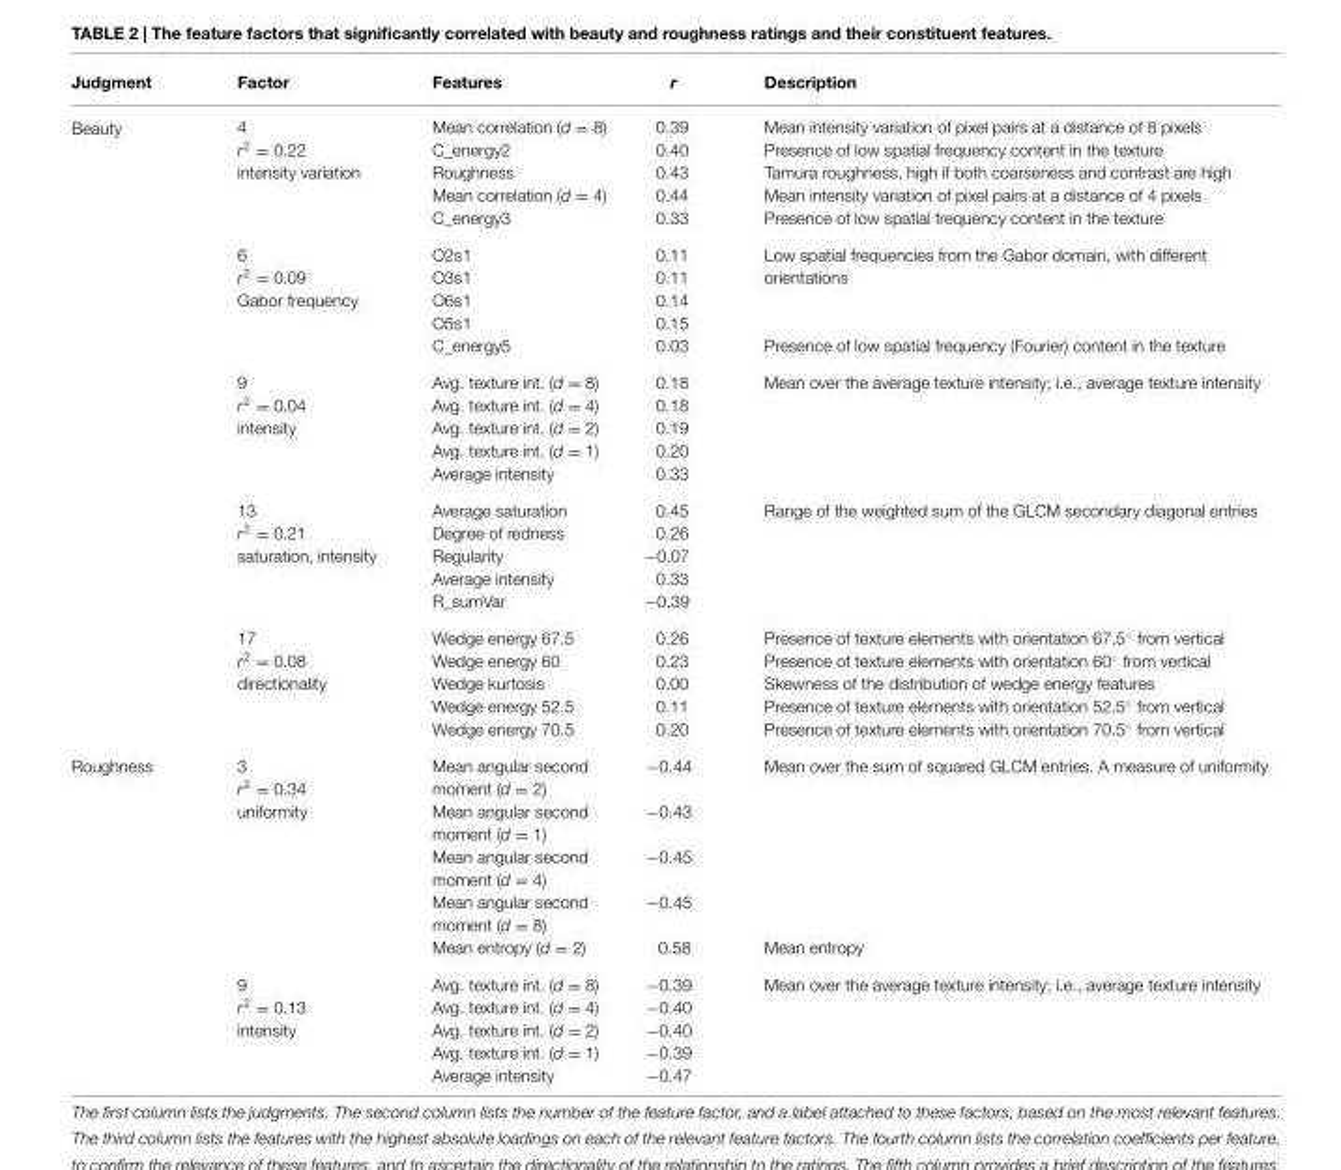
<table><thead><tr><td>Judgment</td><td>Factor</td><td>Features</td><td>r</td><td>Description</td></tr></thead><tbody><tr><td rowspan="5">Beauty</td><td>4 r<sup>2</sup> = 0.22 intensity variation</td><td>Mean correlation (d = 8) C_energy2 Roughness Mean correlation (d = 4) C_energy3</td><td>0.39 0.40 0.43 0.44 0.33</td><td>Mean intensity variation of pixel pairs at a distance of 8 pixels Presence of low spatial frequency content in the texture Tamura roughness, high if both coarseness and contrast are high Mean intensity variation of pixel pairs at a distance of 4 pixels Presence of low spatial frequency content in the texture</td></tr><tr><td>6 r<sup>2</sup> = 0.09 Gabor frequency</td><td>O2s1 O3s1 O6s1 O5s1 C_energy5</td><td>0.11 0.11 0.14 0.15 0.03</td><td>Low spatial frequencies from the Gabor domain, with different orientations Presence of low spatial frequency (Fourier) content in the texture</td></tr><tr><td>9 r<sup>2</sup> = 0.04 intensity</td><td>Avg. texture int. (d = 8) Avg. texture int. (d = 4) Avg. texture int. (d = 2) Avg. texture int. (d = 1) Average intensity</td><td>0.18 0.18 0.19 0.20 0.33</td><td>Mean over the average texture intensity; i.e., average texture intensity</td></tr><tr><td>13 r<sup>2</sup> = 0.21 saturation, intensity</td><td>Average saturation Degree of redness Regularity Average intensity R_sumVar</td><td>0.45 0.26 −0.07 0.33 −0.39</td><td>Range of the weighted sum of the GLCM secondary diagonal entries</td></tr><tr><td>17 r2 = 0.08 directionality</td><td>Wedge energy 67.5 Wedge energy 60 Wedge kurtosis Wedge energy 52.5 Wedge energy 70.5</td><td>0.26 0.23 0.00 0.11 0.20</td><td>Presence of texture elements with orientation 67.5◦ from vertical Presence of texture elements with orientation 60◦ from vertical Skewness of the distribution of wedge energy features Presence of texture elements with orientation 52.5◦ from vertical Presence of texture elements with orientation 70.5◦ from vertical</td></tr><tr><td rowspan="2">Roughness</td><td>3 r2 = 0.34 uniformity</td><td>Mean angular second moment (d = 2) Mean angular second moment (d = 1) Mean angular second moment (d = 4) Mean angular second moment (d = 8) Mean entropy (d = 2)</td><td>−0.44 −0.43 −0.45 −0.45 0.58</td><td>Mean over the sum of squared GLCM entries. A measure of uniformity Mean entropy</td></tr><tr><td>9 r2 = 0.13 intensity</td><td>Avg. texture int. (d = 8) Avg. texture int. (d = 4) Avg. texture int. (d = 2) Avg. texture int. (d = 1) Average intensity</td><td>−0.39 −0.40 −0.40 −0.39 −0.47</td><td>Mean over the average texture intensity; i.e., average texture intensity</td></tr></tbody></table>